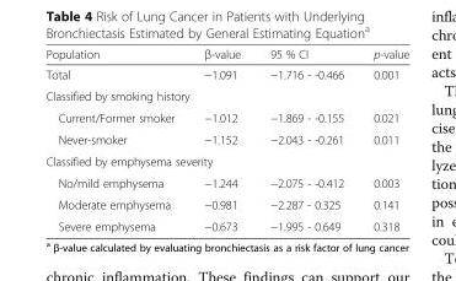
<table><thead><tr><td>Population</td><td>β-value</td><td>95 % CI</td><td>p-value</td></tr></thead><tbody><tr><td>Total</td><td>−1.091</td><td>−1.716 - -0.466</td><td>0.001</td></tr><tr><td colspan="4">Classified by smoking history</td></tr><tr><td>Current/Former smoker</td><td>−1.012</td><td>−1.869 - -0.155</td><td>0.021</td></tr><tr><td>Never-smoker</td><td>−1.152</td><td>−2.043 - -0.261</td><td>0.011</td></tr><tr><td colspan="4">Classified by emphysema severity</td></tr><tr><td>No/mild emphysema</td><td>−1.244</td><td>−2.075 - -0.412</td><td>0.003</td></tr><tr><td>Moderate emphysema</td><td>−0.981</td><td>−2.287 - 0.325</td><td>0.141</td></tr><tr><td>Severe emphysema</td><td>−0.673</td><td>−1.995 - 0.649</td><td>0.318</td></tr></tbody></table>